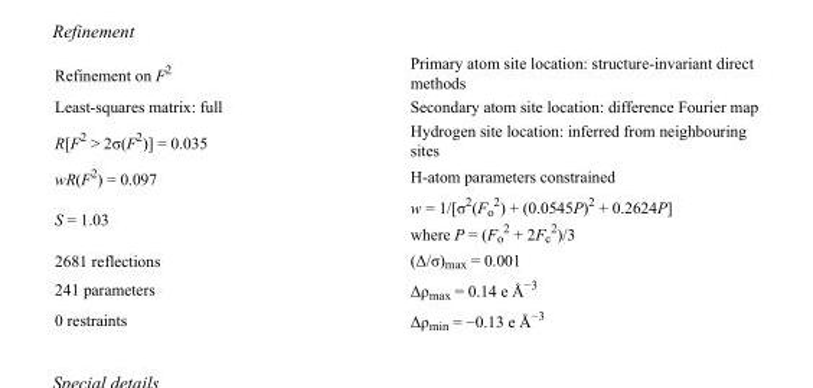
<table><tbody><tr><td>Refinement on F<sup>2</sup></td><td>Primary atom site location: structure-invariant direct methods</td></tr><tr><td>Least-squares matrix: full</td><td>Secondary atom site location: difference Fourier map</td></tr><tr><td>R[F<sup>2</sup> &gt; 2σ(F<sup>2</sup>)] = 0.035</td><td>Hydrogen site location: inferred from neighbouring sites</td></tr><tr><td>wR(F<sup>2</sup>) = 0.097</td><td>H-atom parameters constrained</td></tr><tr><td>S = 1.03</td><td>w = 1/[σ<sup>2</sup>(F<sub>o</sub> <sup>2</sup>) + (0.0545P)<sup>2</sup> + 0.2624P] where P = (F<sub>o</sub> <sup>2</sup> + 2F<sub>c</sub> <sup>2</sup>)/3</td></tr><tr><td>2681 reflections</td><td>(Δ/σ)<sub>max</sub> = 0.001</td></tr><tr><td>241 parameters</td><td>Δρ<sub>max</sub> = 0.14 e Å<sup>−3</sup></td></tr><tr><td>0 restraints</td><td>Δρ<sub>min</sub> = −0.13 e Å<sup>−3</sup></td></tr></tbody></table>